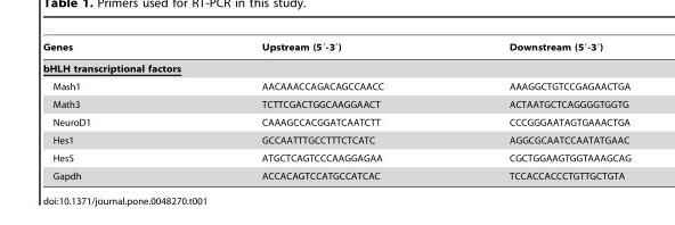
<table><thead><tr><td>Genes</td><td>Upstream (5′-3′)</td><td>Downstream (5′-3′)</td></tr></thead><tbody><tr><td colspan="3">bHLH transcriptional factors</td></tr><tr><td>Mash1</td><td>AACAAACCAGACAGCCAACC</td><td>AAAGGCTGTCCGAGAACTGA</td></tr><tr><td>Math3</td><td>TCTTCGACTGGCAAGGAACT</td><td>ACTAATGCTCAGGGGTGGTG</td></tr><tr><td>NeuroD1</td><td>CAAAGCCACGGATCAATCTT</td><td>CCCGGGAATAGTGAAACTGA</td></tr><tr><td>Hes1</td><td>GCCAATTTGCCTTTCTCATC</td><td>AGGCGCAATCCAATATGAAC</td></tr><tr><td>Hes5</td><td>ATGCTCAGTCCCAAGGAGAA</td><td>CGCTGGAAGTGGTAAAGCAG</td></tr><tr><td>Gapdh</td><td>ACCACAGTCCATGCCATCAC</td><td>TCCACCACCCTGTTGCTGTA</td></tr></tbody></table>